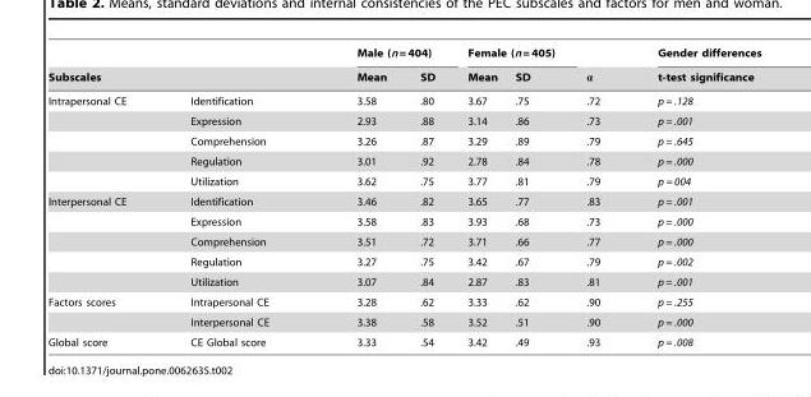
<table><thead><tr><td></td><td></td><td colspan="2">Male (n = 404)</td><td colspan="2">Female (n = 405)</td><td rowspan="2">α</td><td rowspan="2">Gender differences t-test significance</td></tr><tr><td colspan="2">Subscales</td><td>Mean</td><td>SD</td><td>Mean</td><td>SD</td></tr></thead><tbody><tr><td rowspan="5">Intrapersonal CE</td><td>Identification</td><td>3.58</td><td>.80</td><td>3.67</td><td>.75</td><td>.72</td><td>p = .128</td></tr><tr><td>Expression</td><td>2.93</td><td>.88</td><td>3.14</td><td>.86</td><td>.73</td><td>p = .001</td></tr><tr><td>Comprehension</td><td>3.26</td><td>.87</td><td>3.29</td><td>.89</td><td>.79</td><td>p = .645</td></tr><tr><td>Regulation</td><td>3.01</td><td>.92</td><td>2.78</td><td>.84</td><td>.78</td><td>p = .000</td></tr><tr><td>Utilization</td><td>3.62</td><td>.75</td><td>3.77</td><td>.81</td><td>.79</td><td>p = 004</td></tr><tr><td rowspan="5">Interpersonal CE</td><td>Identification</td><td>3.46</td><td>.82</td><td>3.65</td><td>.77</td><td>.83</td><td>p = .001</td></tr><tr><td>Expression</td><td>3.58</td><td>.83</td><td>3.93</td><td>.68</td><td>.73</td><td>p = .000</td></tr><tr><td>Comprehension</td><td>3.51</td><td>.72</td><td>3.71</td><td>.66</td><td>.77</td><td>p = .000</td></tr><tr><td>Regulation</td><td>3.27</td><td>.75</td><td>3.42</td><td>.67</td><td>.79</td><td>p = .002</td></tr><tr><td>Utilization</td><td>3.07</td><td>.84</td><td>2.87</td><td>.83</td><td>.81</td><td>p = .001</td></tr><tr><td rowspan="2">Factors scores</td><td>Intrapersonal CE</td><td>3.28</td><td>.62</td><td>3.33</td><td>.62</td><td>.90</td><td>p = .255</td></tr><tr><td>Interpersonal CE</td><td>3.38</td><td>.58</td><td>3.52</td><td>.51</td><td>.90</td><td>p = .000</td></tr><tr><td>Global score</td><td>CE Global score</td><td>3.33</td><td>.54</td><td>3.42</td><td>.49</td><td>.93</td><td>p = .008</td></tr></tbody></table>